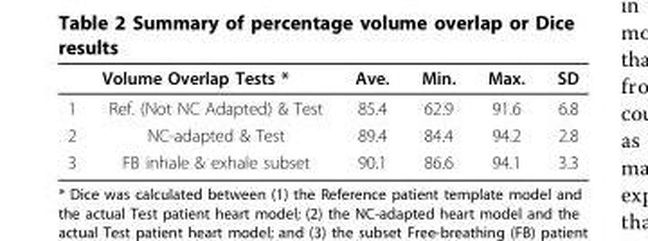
<table><thead><tr><td colspan="2">Volume Overlap Tests *</td><td rowspan="2">Ave. 85.4</td><td rowspan="2">Min. 62.9</td><td rowspan="2">Max. 91.6</td><td rowspan="2">SD 6.8</td></tr><tr><td>1</td><td>Ref. (Not NC Adapted) &amp; Test</td></tr></thead><tbody><tr><td>2</td><td>NC-adapted &amp; Test</td><td>89.4</td><td>84.4</td><td>94.2</td><td>2.8</td></tr><tr><td>3</td><td>FB inhale &amp; exhale subset</td><td>90.1</td><td>86.6</td><td>94.1</td><td>3.3</td></tr></tbody></table>